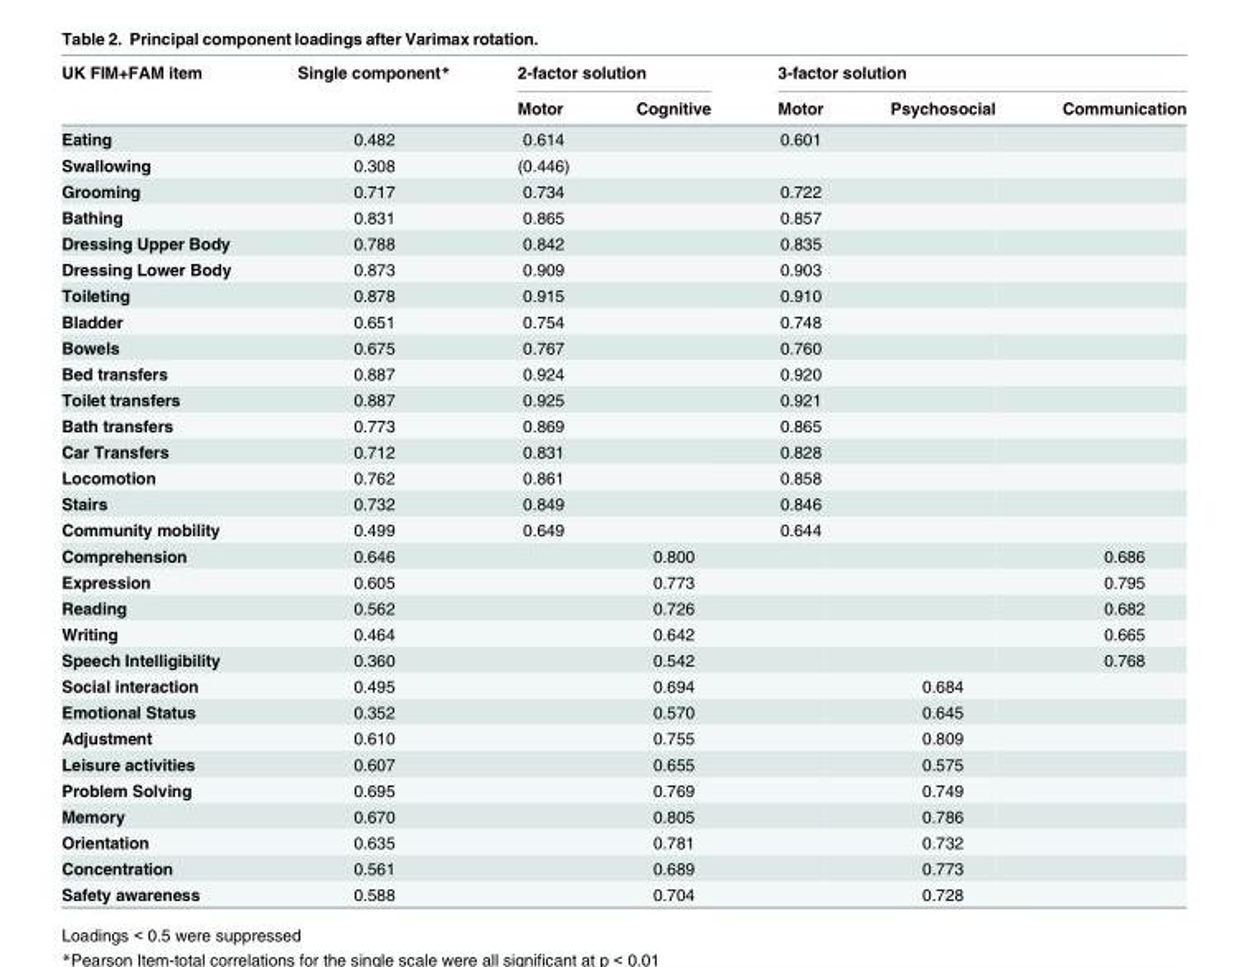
<table><thead><tr><td rowspan="2">UK FIM+FAM item</td><td rowspan="2">Single component*</td><td colspan="2">2-factor solution</td><td colspan="3">3-factor solution</td></tr><tr><td>Motor</td><td>Cognitive</td><td>Motor</td><td>Psychosocial</td><td>Communication</td></tr></thead><tbody><tr><td>Eating</td><td>0.482</td><td>0.614</td><td></td><td>0.601</td><td></td><td></td></tr><tr><td>Swallowing</td><td>0.308</td><td>(0.446)</td><td></td><td></td><td></td><td></td></tr><tr><td>Grooming</td><td>0.717</td><td>0.734</td><td></td><td>0.722</td><td></td><td></td></tr><tr><td>Bathing</td><td>0.831</td><td>0.865</td><td></td><td>0.857</td><td></td><td></td></tr><tr><td>Dressing Upper Body</td><td>0.788</td><td>0.842</td><td></td><td>0.835</td><td></td><td></td></tr><tr><td>Dressing Lower Body</td><td>0.873</td><td>0.909</td><td></td><td>0.903</td><td></td><td></td></tr><tr><td>Toileting</td><td>0.878</td><td>0.915</td><td></td><td>0.910</td><td></td><td></td></tr><tr><td>Bladder</td><td>0.651</td><td>0.754</td><td></td><td>0.748</td><td></td><td></td></tr><tr><td>Bowels</td><td>0.675</td><td>0.767</td><td></td><td>0.760</td><td></td><td></td></tr><tr><td>Bed transfers</td><td>0.887</td><td>0.924</td><td></td><td>0.920</td><td></td><td></td></tr><tr><td>Toilet transfers</td><td>0.887</td><td>0.925</td><td></td><td>0.921</td><td></td><td></td></tr><tr><td>Bath transfers</td><td>0.773</td><td>0.869</td><td></td><td>0.865</td><td></td><td></td></tr><tr><td>Car Transfers</td><td>0.712</td><td>0.831</td><td></td><td>0.828</td><td></td><td></td></tr><tr><td>Locomotion</td><td>0.762</td><td>0.861</td><td></td><td>0.858</td><td></td><td></td></tr><tr><td>Stairs</td><td>0.732</td><td>0.849</td><td></td><td>0.846</td><td></td><td></td></tr><tr><td>Community mobility</td><td>0.499</td><td>0.649</td><td></td><td>0.644</td><td></td><td></td></tr><tr><td>Comprehension</td><td>0.646</td><td></td><td>0.800</td><td></td><td></td><td>0.686</td></tr><tr><td>Expression</td><td>0.605</td><td></td><td>0.773</td><td></td><td></td><td>0.795</td></tr><tr><td>Reading</td><td>0.562</td><td></td><td>0.726</td><td></td><td></td><td>0.682</td></tr><tr><td>Writing</td><td>0.464</td><td></td><td>0.642</td><td></td><td></td><td>0.665</td></tr><tr><td>Speech Intelligibility</td><td>0.360</td><td></td><td>0.542</td><td></td><td></td><td>0.768</td></tr><tr><td>Social interaction</td><td>0.495</td><td></td><td>0.694</td><td></td><td>0.684</td><td></td></tr><tr><td>Emotional Status</td><td>0.352</td><td></td><td>0.570</td><td></td><td>0.645</td><td></td></tr><tr><td>Adjustment</td><td>0.610</td><td></td><td>0.755</td><td></td><td>0.809</td><td></td></tr><tr><td>Leisure activities</td><td>0.607</td><td></td><td>0.655</td><td></td><td>0.575</td><td></td></tr><tr><td>Problem Solving</td><td>0.695</td><td></td><td>0.769</td><td></td><td>0.749</td><td></td></tr><tr><td>Memory</td><td>0.670</td><td></td><td>0.805</td><td></td><td>0.786</td><td></td></tr><tr><td>Orientation</td><td>0.635</td><td></td><td>0.781</td><td></td><td>0.732</td><td></td></tr><tr><td>Concentration</td><td>0.561</td><td></td><td>0.689</td><td></td><td>0.773</td><td></td></tr><tr><td>Safety awareness</td><td>0.588</td><td></td><td>0.704</td><td></td><td>0.728</td><td></td></tr></tbody></table>